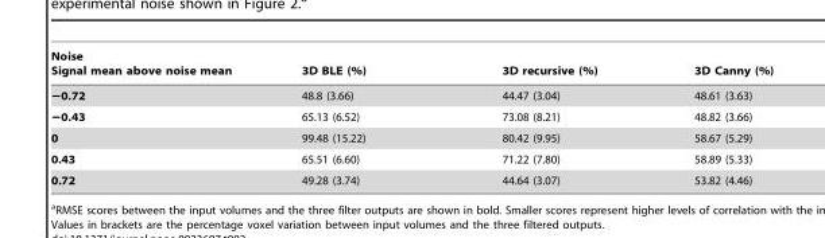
<table><thead><tr><td>Noise Signal mean above noise mean</td><td>3D BLE (%)</td><td>3D recursive (%)</td><td>3D Canny (%)</td></tr></thead><tbody><tr><td>−0.72</td><td>48.8 (3.66)</td><td>44.47 (3.04)</td><td>48.61 (3.63)</td></tr><tr><td>−0.43</td><td>65.13 (6.52)</td><td>73.08 (8.21)</td><td>48.82 (3.66)</td></tr><tr><td>0</td><td>99.48 (15.22)</td><td>80.42 (9.95)</td><td>58.67 (5.29)</td></tr><tr><td>0.43</td><td>65.51 (6.60)</td><td>71.22 (7.80)</td><td>58.89 (5.33)</td></tr><tr><td>0.72</td><td>49.28 (3.74)</td><td>44.64 (3.07)</td><td>53.82 (4.46)</td></tr></tbody></table>